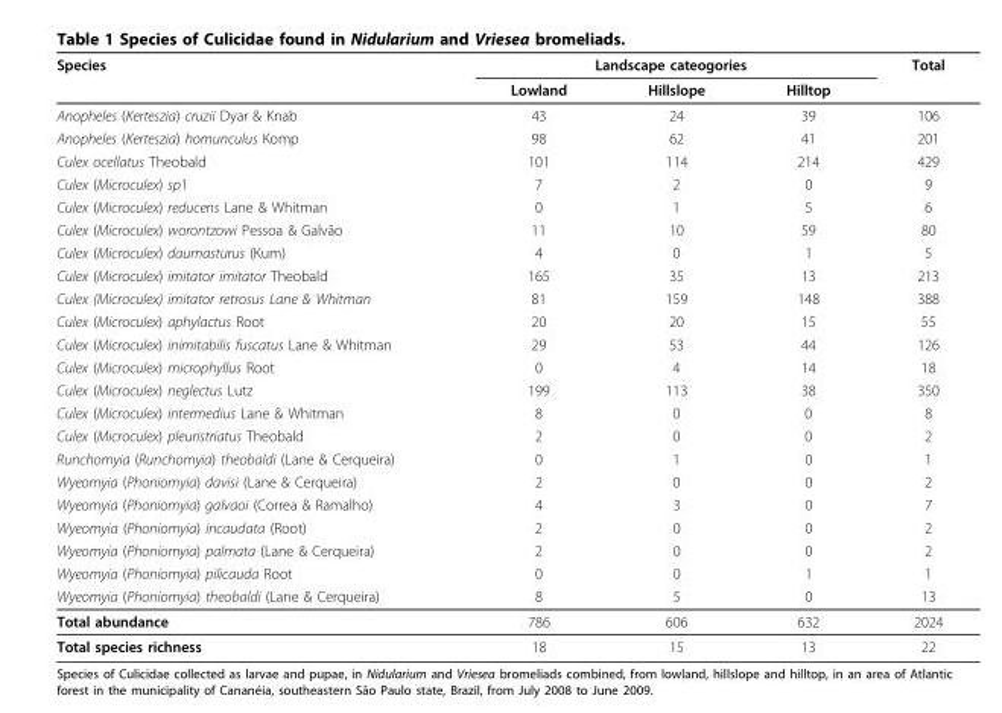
<table><thead><tr><td rowspan="2">Species</td><td colspan="3">Landscape cateogories</td><td rowspan="2">Total</td></tr><tr><td>Lowland</td><td>Hillslope</td><td>Hilltop</td></tr></thead><tbody><tr><td>Anopheles (Kerteszia) cruzii Dyar &amp; Knab</td><td>43</td><td>24</td><td>39</td><td>106</td></tr><tr><td>Anopheles (Kerteszia) homunculus Komp</td><td>98</td><td>62</td><td>41</td><td>201</td></tr><tr><td>Culex ocellatus Theobald</td><td>101</td><td>114</td><td>214</td><td>429</td></tr><tr><td>Culex (Microculex) sp1</td><td>7</td><td>2</td><td>0</td><td>9</td></tr><tr><td>Culex (Microculex) reducens Lane &amp; Whitman</td><td>0</td><td>1</td><td>5</td><td>6</td></tr><tr><td>Culex (Microculex) worontzowi Pessoa &amp; Galvão</td><td>11</td><td>10</td><td>59</td><td>80</td></tr><tr><td>Culex (Microculex) daumasturus (Kum)</td><td>4</td><td>0</td><td>1</td><td>5</td></tr><tr><td>Culex (Microculex) imitator imitator Theobald</td><td>165</td><td>35</td><td>13</td><td>213</td></tr><tr><td>Culex (Microculex) imitator retrosus Lane &amp; Whitman</td><td>81</td><td>159</td><td>148</td><td>388</td></tr><tr><td>Culex (Microculex) aphylactus Root</td><td>20</td><td>20</td><td>15</td><td>55</td></tr><tr><td>Culex (Microculex) inimitabilis fuscatus Lane &amp; Whitman</td><td>29</td><td>53</td><td>44</td><td>126</td></tr><tr><td>Culex (Microculex) microphyllus Root</td><td>0</td><td>4</td><td>14</td><td>18</td></tr><tr><td>Culex (Microculex) neglectus Lutz</td><td>199</td><td>113</td><td>38</td><td>350</td></tr><tr><td>Culex (Microculex) intermedius Lane &amp; Whitman</td><td>8</td><td>0</td><td>0</td><td>8</td></tr><tr><td>Culex (Microculex) pleuristriatus Theobald</td><td>2</td><td>0</td><td>0</td><td>2</td></tr><tr><td>Runchomyia (Runchomyia) theobaldi (Lane &amp; Cerqueira)</td><td>0</td><td>1</td><td>0</td><td>1</td></tr><tr><td>Wyeomyia (Phoniomyia) davisi (Lane &amp; Cerqueira)</td><td>2</td><td>0</td><td>0</td><td>2</td></tr><tr><td>Wyeomyia (Phoniomyia) galvaoi (Correa &amp; Ramalho)</td><td>4</td><td>3</td><td>0</td><td>7</td></tr><tr><td>Wyeomyia (Phoniomyia) incaudata (Root)</td><td>2</td><td>0</td><td>0</td><td>2</td></tr><tr><td>Wyeomyia (Phoniomyia) palmata (Lane &amp; Cerqueira)</td><td>2</td><td>0</td><td>0</td><td>2</td></tr><tr><td>Wyeomyia (Phoniomyia) pilicauda Root</td><td>0</td><td>0</td><td>1</td><td>1</td></tr><tr><td>Wyeomyia (Phoniomyia) theobaldi (Lane &amp; Cerqueira)</td><td>8</td><td>5</td><td>0</td><td>13</td></tr><tr><td>Total abundance</td><td>786</td><td>606</td><td>632</td><td>2024</td></tr><tr><td>Total species richness</td><td>18</td><td>15</td><td>13</td><td>22</td></tr></tbody></table>